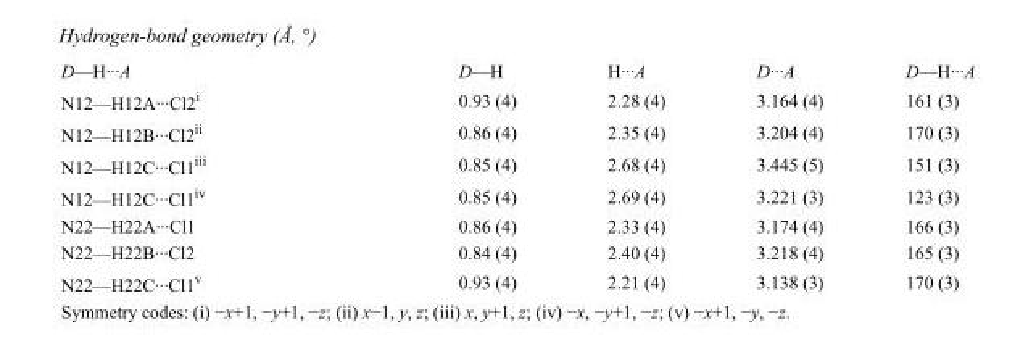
<table><tbody><tr><td>D—H···A</td><td>D—H</td><td>H···A</td><td>D···A</td><td>D—H···A</td></tr><tr><td>N12—H12A···Cl2<sup>i</sup></td><td>0.93 (4)</td><td>2.28 (4)</td><td>3.164 (4)</td><td>161 (3)</td></tr><tr><td>N12—H12B···Cl2<sup>ii</sup></td><td>0.86 (4)</td><td>2.35 (4)</td><td>3.204 (4)</td><td>170 (3)</td></tr><tr><td>N12—H12C···Cl1<sup>iii</sup></td><td>0.85 (4)</td><td>2.68 (4)</td><td>3.445 (5)</td><td>151 (3)</td></tr><tr><td>N12—H12C···Cl1<sup>iv</sup></td><td>0.85 (4)</td><td>2.69 (4)</td><td>3.221 (3)</td><td>123 (3)</td></tr><tr><td>N22—H22A···Cl1</td><td>0.86 (4)</td><td>2.33 (4)</td><td>3.174 (4)</td><td>166 (3)</td></tr><tr><td>N22—H22B···Cl2</td><td>0.84 (4)</td><td>2.40 (4)</td><td>3.218 (4)</td><td>165 (3)</td></tr><tr><td>N22—H22C···Cl1<sup>v</sup></td><td>0.93 (4)</td><td>2.21 (4)</td><td>3.138 (3)</td><td>170 (3)</td></tr></tbody></table>